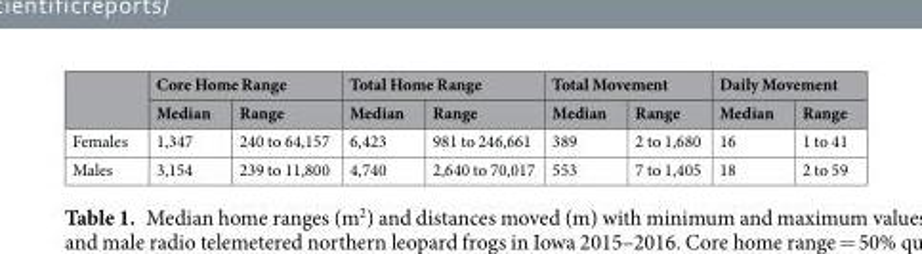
<table><thead><tr><td rowspan="2"></td><td colspan="2">Core Home Range</td><td colspan="2">Total Home Range</td><td colspan="2">Total Movement</td><td colspan="2">Daily Movement</td></tr><tr><td>Median</td><td>Range</td><td>Median</td><td>Range</td><td>Median</td><td>Range</td><td>Median</td><td>Range</td></tr></thead><tbody><tr><td>Females</td><td>1,347</td><td>240 to 64,157</td><td>6,423</td><td>981 to 246,661</td><td>389</td><td>2 to 1,680</td><td>16</td><td>1 to 41</td></tr><tr><td>Males</td><td>3,154</td><td>239 to 11,800</td><td>4,740</td><td>2,640 to 70,017</td><td>553</td><td>7 to 1,405</td><td>18</td><td>2 to 59</td></tr></tbody></table>